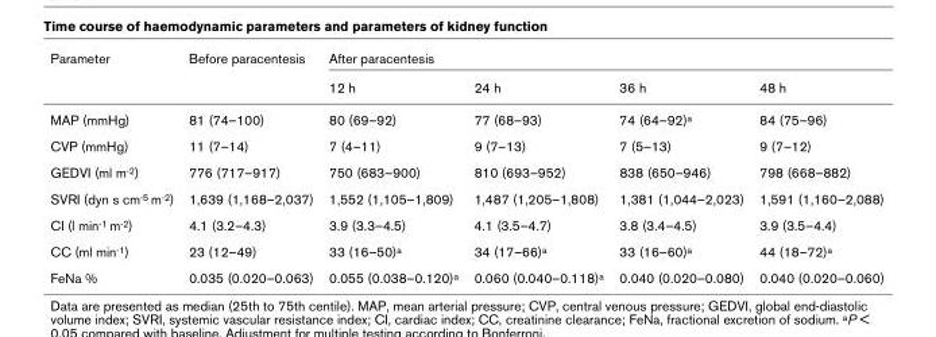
<table><thead><tr><td rowspan="2">Parameter</td><td rowspan="2">Before paracentesis</td><td colspan="4">After paracentesis</td></tr><tr><td>12 h</td><td>24 h</td><td>36 h</td><td>48 h</td></tr></thead><tbody><tr><td>MAP (mmHg)</td><td>81 (74–100)</td><td>80 (69–92)</td><td>77 (68–93)</td><td>74 (64–92)<sup>a</sup></td><td>84 (75–96)</td></tr><tr><td>CVP (mmHg)</td><td>11 (7–14)</td><td>7 (4–11)</td><td>9 (7–13)</td><td>7 (5–13)</td><td>9 (7–12)</td></tr><tr><td>GEDVI (ml m<sup>-2</sup>)</td><td>776 (717–917)</td><td>750 (683–900)</td><td>810 (693–952)</td><td>838 (650–946)</td><td>798 (668–882)</td></tr><tr><td>SVRI (dyn s cm<sup>-5</sup> m<sup>-2</sup>)</td><td>1,639 (1,168–2,037)</td><td>1,552 (1,105–1,809)</td><td>1,487 (1,205–1,808)</td><td>1,381 (1,044–2,023)</td><td>1,591 (1,160–2,088)</td></tr><tr><td>CI (l min<sup>-1</sup> m<sup>-2</sup>)</td><td>4.1 (3.2–4.3)</td><td>3.9 (3.3–4.5)</td><td>4.1 (3.5–4.7)</td><td>3.8 (3.4–4.5)</td><td>3.9 (3.5–4.4)</td></tr><tr><td>CC (ml min<sup>-1</sup>)</td><td>23 (12–49)</td><td>33 (16–50)<sup>a</sup></td><td>34 (17–66)<sup>a</sup></td><td>33 (16–60)<sup>a</sup></td><td>44 (18–72)<sup>a</sup></td></tr><tr><td>FeNa %</td><td>0.035 (0.020–0.063)</td><td>0.055 (0.038–0.120)<sup>a</sup></td><td>0.060 (0.040–0.118)<sup>a</sup></td><td>0.040 (0.020–0.080)</td><td>0.040 (0.020–0.060)</td></tr></tbody></table>